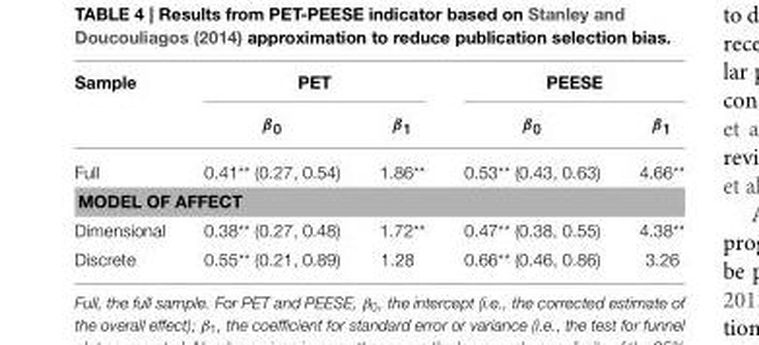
<table><thead><tr><td rowspan="2">Sample</td><td colspan="2">PET</td><td colspan="2">PEESE</td></tr><tr><td>β<sub>0</sub></td><td>β<sub>1</sub></td><td>β<sub>0</sub></td><td>β<sub>1</sub></td></tr></thead><tbody><tr><td>Full</td><td>0.41** (0.27, 0.54)</td><td>1.86**</td><td>0.53** (0.43, 0.63)</td><td>4.66**</td></tr><tr><td colspan="5">MODEL OF AFFECT</td></tr><tr><td>Dimensional</td><td>0.38** (0.27, 0.48)</td><td>1.72**</td><td>0.47** (0.38, 0.55)</td><td>4.38**</td></tr><tr><td>Discrete</td><td>0.55** (0.21, 0.89)</td><td>1.28</td><td>0.66** (0.46, 0.86)</td><td>3.26</td></tr></tbody></table>